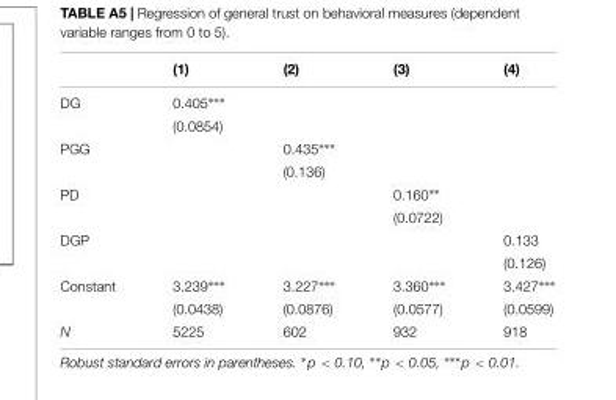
<table><thead><tr><td></td><td>(1)</td><td>(2)</td><td>(3)</td><td>(4)</td></tr></thead><tbody><tr><td rowspan="2">DG</td><td>0.405∗∗∗</td><td></td><td></td><td></td></tr><tr><td>(0.0854)</td><td></td><td></td><td></td></tr><tr><td rowspan="2">PGG</td><td></td><td>0.435∗∗∗</td><td></td><td></td></tr><tr><td></td><td>(0.136)</td><td></td><td></td></tr><tr><td rowspan="2">PD</td><td></td><td></td><td>0.160∗∗</td><td></td></tr><tr><td></td><td></td><td>(0.0722)</td><td></td></tr><tr><td rowspan="2">DGP</td><td></td><td></td><td></td><td>0.133</td></tr><tr><td></td><td></td><td></td><td>(0.126)</td></tr><tr><td rowspan="2">Constant</td><td>3.239∗∗∗</td><td>3.227∗∗∗</td><td>3.360∗∗∗</td><td>3.427∗∗∗</td></tr><tr><td>(0.0438)</td><td>(0.0876)</td><td>(0.0577)</td><td>(0.0599)</td></tr><tr><td>N</td><td>5225</td><td>602</td><td>932</td><td>918</td></tr></tbody></table>